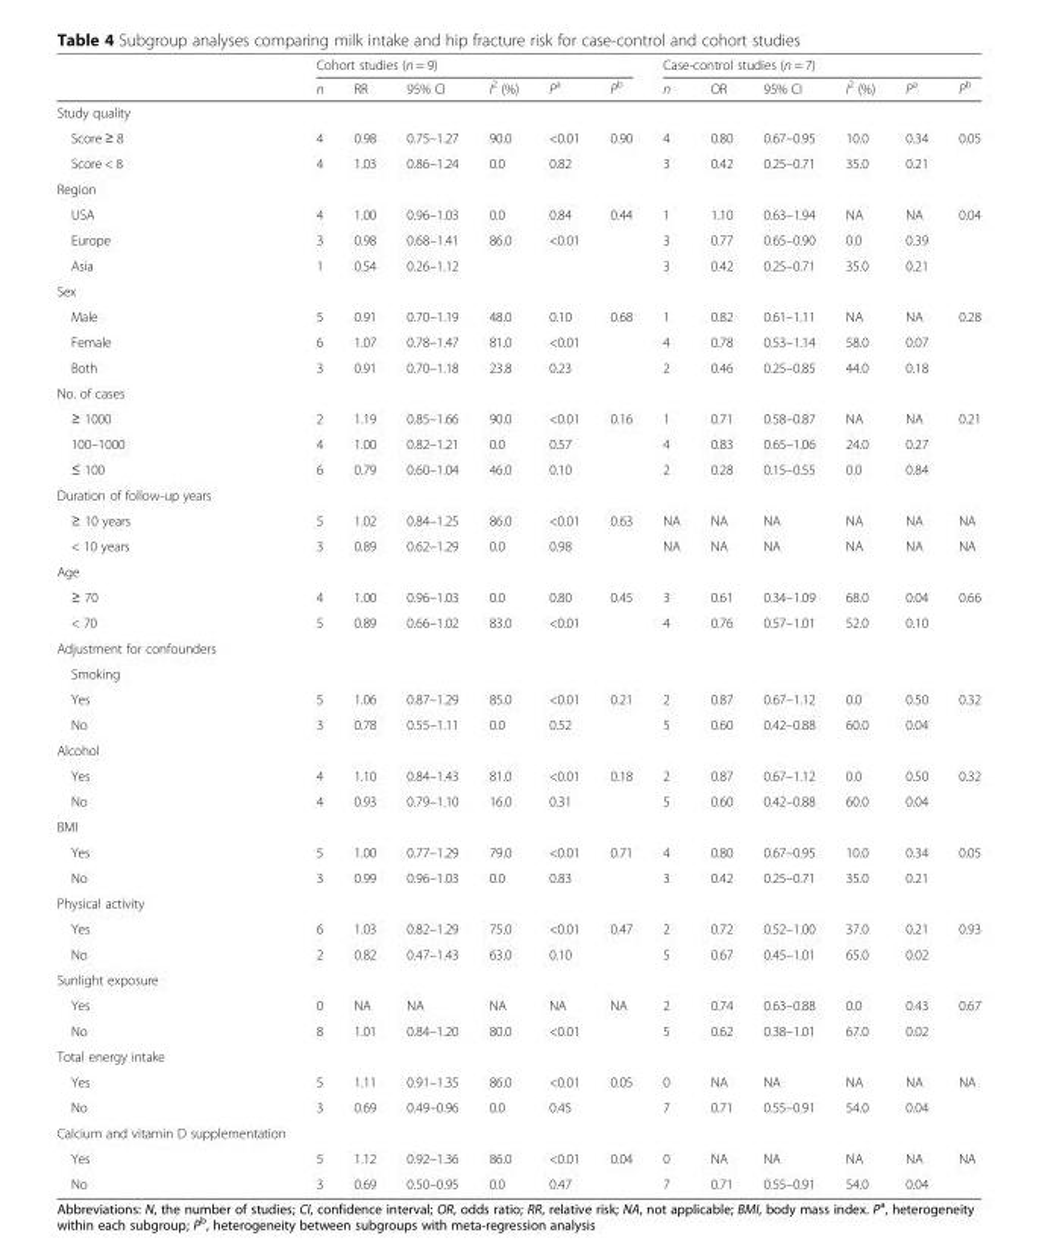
<table><thead><tr><td rowspan="2"></td><td colspan="6">Cohort studies (n = 9)</td><td colspan="6">Case-control studies (n = 7)</td></tr><tr><td>n</td><td>RR</td><td>95% CI</td><td>I<sup>2</sup> (%)</td><td>P<sup>a</sup></td><td>P<sup>b</sup></td><td>n</td><td>OR</td><td>95% CI</td><td>I<sup>2</sup> (%)</td><td>P<sup>a</sup></td><td>P<sup>b</sup></td></tr></thead><tbody><tr><td colspan="13">Study quality</td></tr><tr><td>Score ≥ 8</td><td>4</td><td>0.98</td><td>0.75–1.27</td><td>90.0</td><td>&lt;0.01</td><td>0.90</td><td>4</td><td>0.80</td><td>0.67–0.95</td><td>10.0</td><td>0.34</td><td>0.05</td></tr><tr><td>Score &lt; 8</td><td>4</td><td>1.03</td><td>0.86–1.24</td><td>0.0</td><td>0.82</td><td></td><td>3</td><td>0.42</td><td>0.25–0.71</td><td>35.0</td><td>0.21</td><td></td></tr><tr><td colspan="13">Region</td></tr><tr><td>USA</td><td>4</td><td>1.00</td><td>0.96–1.03</td><td>0.0</td><td>0.84</td><td>0.44</td><td>1</td><td>1.10</td><td>0.63–1.94</td><td>NA</td><td>NA</td><td>0.04</td></tr><tr><td>Europe</td><td>3</td><td>0.98</td><td>0.68–1.41</td><td>86.0</td><td>&lt;0.01</td><td></td><td>3</td><td>0.77</td><td>0.65–0.90</td><td>0.0</td><td>0.39</td><td></td></tr><tr><td>Asia</td><td>1</td><td>0.54</td><td>0.26–1.12</td><td></td><td></td><td></td><td>3</td><td>0.42</td><td>0.25–0.71</td><td>35.0</td><td>0.21</td><td></td></tr><tr><td colspan="13">Sex</td></tr><tr><td>Male</td><td>5</td><td>0.91</td><td>0.70–1.19</td><td>48.0</td><td>0.10</td><td>0.68</td><td>1</td><td>0.82</td><td>0.61–1.11</td><td>NA</td><td>NA</td><td>0.28</td></tr><tr><td>Female</td><td>6</td><td>1.07</td><td>0.78–1.47</td><td>81.0</td><td>&lt;0.01</td><td></td><td>4</td><td>0.78</td><td>0.53–1.14</td><td>58.0</td><td>0.07</td><td></td></tr><tr><td>Both</td><td>3</td><td>0.91</td><td>0.70–1.18</td><td>23.8</td><td>0.23</td><td></td><td>2</td><td>0.46</td><td>0.25–0.85</td><td>44.0</td><td>0.18</td><td></td></tr><tr><td colspan="13">No. of cases</td></tr><tr><td>≥ 1000</td><td>2</td><td>1.19</td><td>0.85–1.66</td><td>90.0</td><td>&lt;0.01</td><td>0.16</td><td>1</td><td>0.71</td><td>0.58–0.87</td><td>NA</td><td>NA</td><td>0.21</td></tr><tr><td>100–1000</td><td>4</td><td>1.00</td><td>0.82–1.21</td><td>0.0</td><td>0.57</td><td></td><td>4</td><td>0.83</td><td>0.65–1.06</td><td>24.0</td><td>0.27</td><td></td></tr><tr><td>≤ 100</td><td>6</td><td>0.79</td><td>0.60–1.04</td><td>46.0</td><td>0.10</td><td></td><td>2</td><td>0.28</td><td>0.15–0.55</td><td>0.0</td><td>0.84</td><td></td></tr><tr><td colspan="13">Duration of follow-up years</td></tr><tr><td>≥ 10 years</td><td>5</td><td>1.02</td><td>0.84–1.25</td><td>86.0</td><td>&lt;0.01</td><td>0.63</td><td>NA</td><td>NA</td><td>NA</td><td>NA</td><td>NA</td><td>NA</td></tr><tr><td>&lt; 10 years</td><td>3</td><td>0.89</td><td>0.62–1.29</td><td>0.0</td><td>0.98</td><td></td><td>NA</td><td>NA</td><td>NA</td><td>NA</td><td>NA</td><td>NA</td></tr><tr><td colspan="13">Age</td></tr><tr><td>≥ 70</td><td>4</td><td>1.00</td><td>0.96–1.03</td><td>0.0</td><td>0.80</td><td>0.45</td><td>3</td><td>0.61</td><td>0.34–1.09</td><td>68.0</td><td>0.04</td><td>0.66</td></tr><tr><td>&lt; 70</td><td>5</td><td>0.89</td><td>0.66–1.02</td><td>83.0</td><td>&lt;0.01</td><td></td><td>4</td><td>0.76</td><td>0.57–1.01</td><td>52.0</td><td>0.10</td><td></td></tr><tr><td colspan="13">Adjustment for confounders</td></tr><tr><td colspan="13">Smoking</td></tr><tr><td>Yes</td><td>5</td><td>1.06</td><td>0.87–1.29</td><td>85.0</td><td>&lt;0.01</td><td>0.21</td><td>2</td><td>0.87</td><td>0.67–1.12</td><td>0.0</td><td>0.50</td><td>0.32</td></tr><tr><td>No</td><td>3</td><td>0.78</td><td>0.55–1.11</td><td>0.0</td><td>0.52</td><td></td><td>5</td><td>0.60</td><td>0.42–0.88</td><td>60.0</td><td>0.04</td><td></td></tr><tr><td colspan="13">Alcohol</td></tr><tr><td>Yes</td><td>4</td><td>1.10</td><td>0.84–1.43</td><td>81.0</td><td>&lt;0.01</td><td>0.18</td><td>2</td><td>0.87</td><td>0.67–1.12</td><td>0.0</td><td>0.50</td><td>0.32</td></tr><tr><td>No</td><td>4</td><td>0.93</td><td>0.79–1.10</td><td>16.0</td><td>0.31</td><td></td><td>5</td><td>0.60</td><td>0.42–0.88</td><td>60.0</td><td>0.04</td><td></td></tr><tr><td colspan="13">BMI</td></tr><tr><td>Yes</td><td>5</td><td>1.00</td><td>0.77–1.29</td><td>79.0</td><td>&lt;0.01</td><td>0.71</td><td>4</td><td>0.80</td><td>0.67–0.95</td><td>10.0</td><td>0.34</td><td>0.05</td></tr><tr><td>No</td><td>3</td><td>0.99</td><td>0.96–1.03</td><td>0.0</td><td>0.83</td><td></td><td>3</td><td>0.42</td><td>0.25–0.71</td><td>35.0</td><td>0.21</td><td></td></tr><tr><td colspan="13">Physical activity</td></tr><tr><td>Yes</td><td>6</td><td>1.03</td><td>0.82–1.29</td><td>75.0</td><td>&lt;0.01</td><td>0.47</td><td>2</td><td>0.72</td><td>0.52–1.00</td><td>37.0</td><td>0.21</td><td>0.93</td></tr><tr><td>No</td><td>2</td><td>0.82</td><td>0.47–1.43</td><td>63.0</td><td>0.10</td><td></td><td>5</td><td>0.67</td><td>0.45–1.01</td><td>65.0</td><td>0.02</td><td></td></tr><tr><td colspan="13">Sunlight exposure</td></tr><tr><td>Yes</td><td>0</td><td>NA</td><td>NA</td><td>NA</td><td>NA</td><td>NA</td><td>2</td><td>0.74</td><td>0.63–0.88</td><td>0.0</td><td>0.43</td><td>0.67</td></tr><tr><td>No</td><td>8</td><td>1.01</td><td>0.84–1.20</td><td>80.0</td><td>&lt;0.01</td><td></td><td>5</td><td>0.62</td><td>0.38–1.01</td><td>67.0</td><td>0.02</td><td></td></tr><tr><td colspan="13">Total energy intake</td></tr><tr><td>Yes</td><td>5</td><td>1.11</td><td>0.91–1.35</td><td>86.0</td><td>&lt;0.01</td><td>0.05</td><td>0</td><td>NA</td><td>NA</td><td>NA</td><td>NA</td><td>NA</td></tr><tr><td>No</td><td>3</td><td>0.69</td><td>0.49–0.96</td><td>0.0</td><td>0.45</td><td></td><td>7</td><td>0.71</td><td>0.55–0.91</td><td>54.0</td><td>0.04</td><td></td></tr><tr><td colspan="13">Calcium and vitamin D supplementation</td></tr><tr><td>Yes</td><td>5</td><td>1.12</td><td>0.92–1.36</td><td>86.0</td><td>&lt;0.01</td><td>0.04</td><td>0</td><td>NA</td><td>NA</td><td>NA</td><td>NA</td><td>NA</td></tr><tr><td>No</td><td>3</td><td>0.69</td><td>0.50–0.95</td><td>0.0</td><td>0.47</td><td></td><td>7</td><td>0.71</td><td>0.55–0.91</td><td>54.0</td><td>0.04</td><td></td></tr></tbody></table>